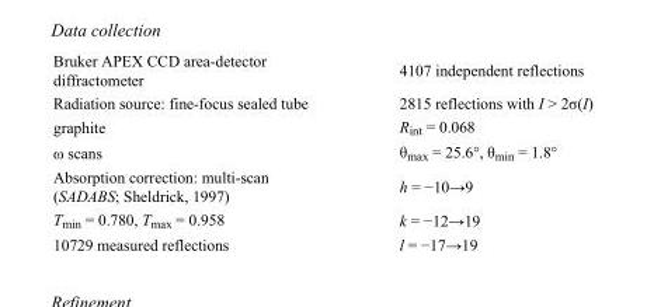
<table><tbody><tr><td>Bruker APEX CCD area-detector diffractometer</td><td>4107 independent reflections</td></tr><tr><td>Radiation source: fine-focus sealed tube</td><td>2815 reflections with I &gt; 2σ(I)</td></tr><tr><td>graphite</td><td>R<sub>int</sub> = 0.068</td></tr><tr><td>ω scans</td><td>θ<sub>max</sub> = 25.6°, θ<sub>min</sub> = 1.8°</td></tr><tr><td>Absorption correction: multi-scan (SADABS; Sheldrick, 1997)</td><td>h = −10→9</td></tr><tr><td>T<sub>min</sub> = 0.780, T<sub>max</sub> = 0.958</td><td>k = −12→19</td></tr><tr><td>10729 measured reflections</td><td>l = −17→19</td></tr></tbody></table>